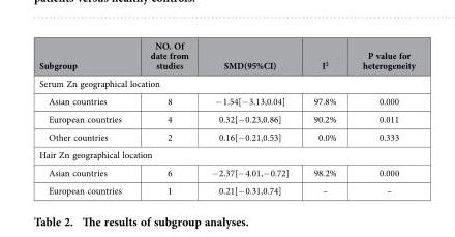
<table><thead><tr><td>Subgroup</td><td>NO. Of date from studies</td><td>SMD(95%CI)</td><td>I<sup>2</sup></td><td>P value for heterogeneity</td></tr></thead><tbody><tr><td colspan="5">Serum Zn geographical location</td></tr><tr><td>Asian countries</td><td>8</td><td>− 1.54[− 3.13,0.04]</td><td>97.8%</td><td>0.000</td></tr><tr><td>European countries</td><td>4</td><td>0.32[− 0.23,0.86]</td><td>90.2%</td><td>0.011</td></tr><tr><td>Other countries</td><td>2</td><td>0.16[− 0.21,0.53]</td><td>0.0%</td><td>0.333</td></tr><tr><td colspan="5">Hair Zn geographical location</td></tr><tr><td>Asian countries</td><td>6</td><td>− 2.37[− 4.01,− 0.72]</td><td>98.2%</td><td>0.000</td></tr><tr><td>European countries</td><td>1</td><td>0.21[− 0.31,0.74]</td><td>–</td><td>–</td></tr></tbody></table>